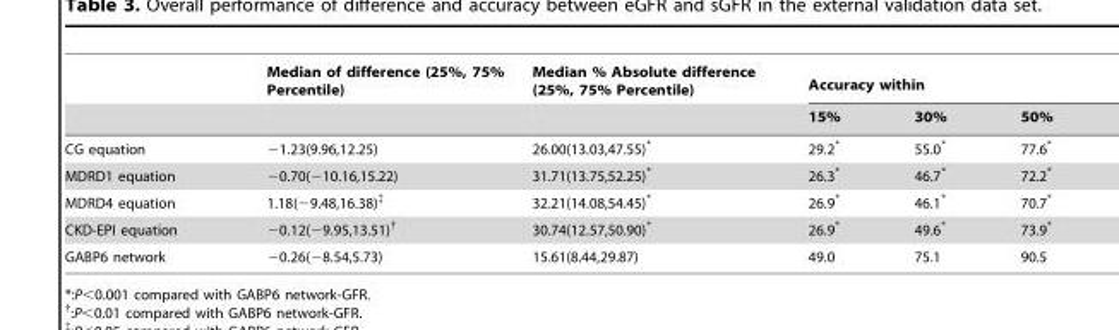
<table><thead><tr><td rowspan="2"></td><td rowspan="2">Median of difference (25%, 75% Percentile)</td><td rowspan="2">Median % Absolute difference (25%, 75% Percentile)</td><td colspan="3">Accuracy within</td></tr><tr><td>15%</td><td>30%</td><td>50%</td></tr></thead><tbody><tr><td>CG equation</td><td>−1.23(9.96,12.25)</td><td>26.00(13.03,47.55)*</td><td>29.2*</td><td>55.0*</td><td>77.6*</td></tr><tr><td>MDRD1 equation</td><td>−0.70(−10.16,15.22)</td><td>31.71(13.75,52.25)*</td><td>26.3*</td><td>46.7*</td><td>72.2*</td></tr><tr><td>MDRD4 equation</td><td>1.18(−9.48,16.38)‡</td><td>32.21(14.08,54.45)*</td><td>26.9*</td><td>46.1*</td><td>70.7*</td></tr><tr><td>CKD-EPI equation</td><td>−0.12(−9.95,13.51)†</td><td>30.74(12.57,50.90)*</td><td>26.9*</td><td>49.6*</td><td>73.9*</td></tr><tr><td>GABP6 network</td><td>−0.26(−8.54,5.73)</td><td>15.61(8.44,29.87)</td><td>49.0</td><td>75.1</td><td>90.5</td></tr></tbody></table>